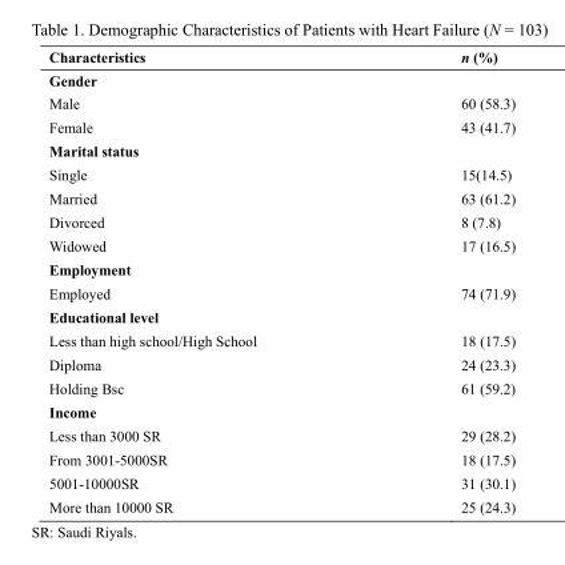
<table><thead><tr><td>Characteristics</td><td>n (%)</td></tr></thead><tbody><tr><td colspan="2">Gender</td></tr><tr><td>Male</td><td>60 (58.3)</td></tr><tr><td>Female</td><td>43 (41.7)</td></tr><tr><td colspan="2">Marital status</td></tr><tr><td>Single</td><td>15(14.5)</td></tr><tr><td>Married</td><td>63 (61.2)</td></tr><tr><td>Divorced</td><td>8 (7.8)</td></tr><tr><td>Widowed</td><td>17 (16.5)</td></tr><tr><td colspan="2">Employment</td></tr><tr><td>Employed</td><td>74 (71.9)</td></tr><tr><td colspan="2">Educational level</td></tr><tr><td>Less than high school/High School</td><td>18 (17.5)</td></tr><tr><td>Diploma</td><td>24 (23.3)</td></tr><tr><td>Holding Bsc</td><td>61 (59.2)</td></tr><tr><td colspan="2">Income</td></tr><tr><td>Less than 3000 SR</td><td>29 (28.2)</td></tr><tr><td>From 3001-5000SR</td><td>18 (17.5)</td></tr><tr><td>5001-10000SR</td><td>31 (30.1)</td></tr><tr><td>More than 10000 SR</td><td>25 (24.3)</td></tr></tbody></table>